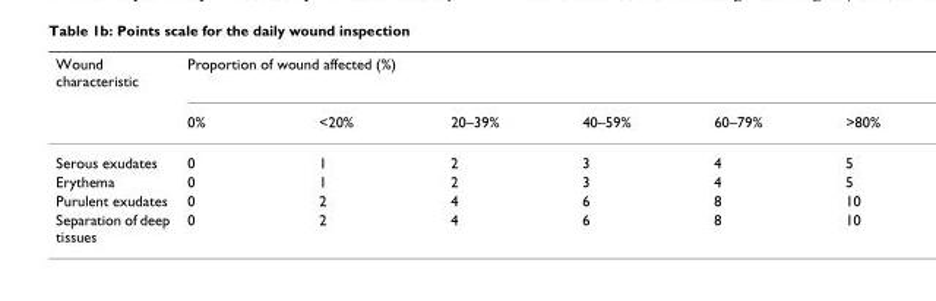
<table><thead><tr><td rowspan="2">Wound characteristic</td><td colspan="6">Proportion of wound affected (%)</td></tr><tr><td>0%</td><td>&lt;20%</td><td>20–39%</td><td>40–59%</td><td>60–79%</td><td>&gt;80%</td></tr></thead><tbody><tr><td>Serous exudates</td><td>0</td><td>1</td><td>2</td><td>3</td><td>4</td><td>5</td></tr><tr><td>Erythema</td><td>0</td><td>1</td><td>2</td><td>3</td><td>4</td><td>5</td></tr><tr><td>Purulent exudates</td><td>0</td><td>2</td><td>4</td><td>6</td><td>8</td><td>10</td></tr><tr><td>Separation of deep tissues</td><td>0</td><td>2</td><td>4</td><td>6</td><td>8</td><td>10</td></tr></tbody></table>